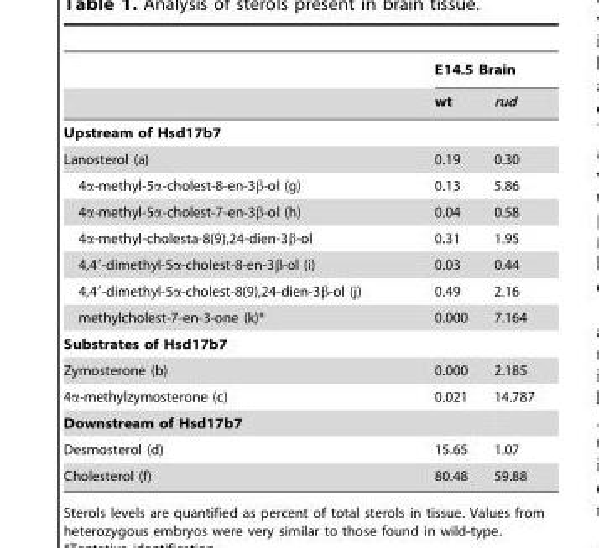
<table><thead><tr><td rowspan="2"></td><td colspan="2">E14.5 Brain</td></tr><tr><td>wt</td><td>rud</td></tr></thead><tbody><tr><td colspan="3">Upstream of Hsd17b7</td></tr><tr><td>Lanosterol (a)</td><td>0.19</td><td>0.30</td></tr><tr><td>4α-methyl-5α-cholest-8-en-3β-ol (g)</td><td>0.13</td><td>5.86</td></tr><tr><td>4α-methyl-5α-cholest-7-en-3β-ol (h)</td><td>0.04</td><td>0.58</td></tr><tr><td>4α-methyl-cholesta-8(9),24-dien-3β-ol</td><td>0.31</td><td>1.95</td></tr><tr><td>4,4′-dimethyl-5α-cholest-8-en-3β-ol (i)</td><td>0.03</td><td>0.44</td></tr><tr><td>4,4′-dimethyl-5α-cholest-8(9),24-dien-3β-ol (j)</td><td>0.49</td><td>2.16</td></tr><tr><td>methylcholest-7-en-3-one (k)*</td><td>0.000</td><td>7.164</td></tr><tr><td colspan="3">Substrates of Hsd17b7</td></tr><tr><td>Zymosterone (b)</td><td>0.000</td><td>2.185</td></tr><tr><td>4α-methylzymosterone (c)</td><td>0.021</td><td>14.787</td></tr><tr><td colspan="3">Downstream of Hsd17b7</td></tr><tr><td>Desmosterol (d)</td><td>15.65</td><td>1.07</td></tr><tr><td>Cholesterol (f)</td><td>80.48</td><td>59.88</td></tr></tbody></table>